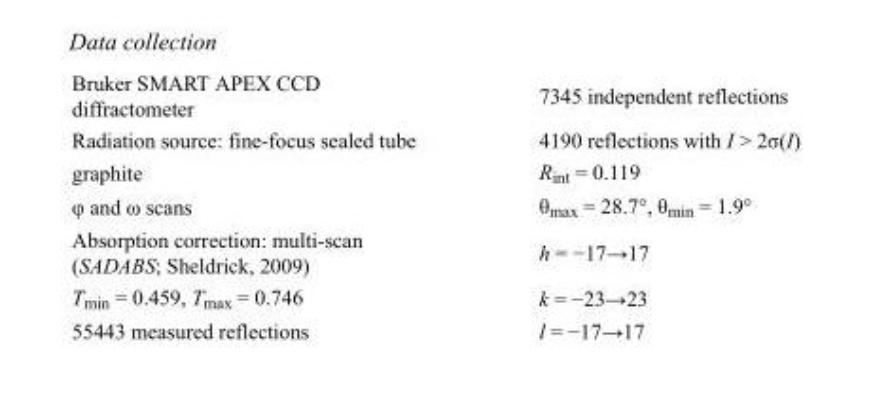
<table><tbody><tr><td>Bruker SMART APEX CCD diffractometer</td><td>7345 independent reflections</td></tr><tr><td>Radiation source: fine-focus sealed tube</td><td>4190 reflections with I &gt; 2σ(I)</td></tr><tr><td>graphite</td><td>R<sub>int</sub> = 0.119</td></tr><tr><td>φ and ω scans</td><td>θ<sub>max</sub> = 28.7°, θ<sub>min</sub> = 1.9°</td></tr><tr><td>Absorption correction: multi-scan (SADABS; Sheldrick, 2009)</td><td>h = −17→17</td></tr><tr><td>T<sub>min</sub> = 0.459, T<sub>max</sub> = 0.746</td><td>k = −23→23</td></tr><tr><td>55443 measured reflections</td><td>l = −17→17</td></tr></tbody></table>